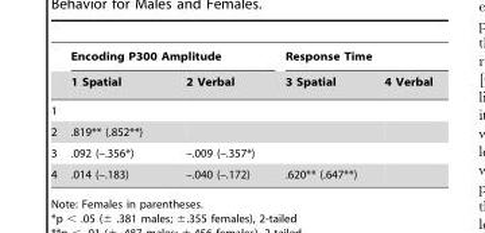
<table><thead><tr><td rowspan="2"></td><td colspan="2">Encoding P300 Amplitude</td><td colspan="2">Response Time</td></tr><tr><td>1 Spatial</td><td>2 Verbal</td><td>3 Spatial</td><td>4 Verbal</td></tr></thead><tbody><tr><td colspan="5">1</td></tr><tr><td>2</td><td>.819** (.852**)</td><td></td><td></td><td></td></tr><tr><td>3</td><td>.092 (–.356*)</td><td>–.009 (–.357*)</td><td></td><td></td></tr><tr><td>4</td><td>.014 (–.183)</td><td>–.040 (–.172)</td><td>.620** (.647**)</td><td></td></tr></tbody></table>